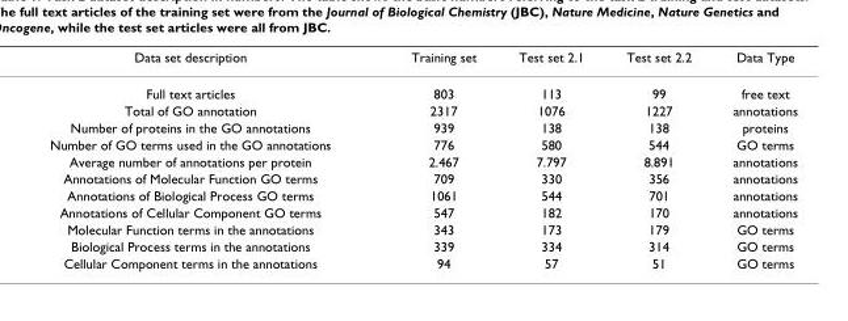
<table><thead><tr><td>Data set description</td><td>Training set</td><td>Test set 2.1</td><td>Test set 2.2</td><td>Data Type</td></tr></thead><tbody><tr><td>Full text articles</td><td>803</td><td>113</td><td>99</td><td>free text</td></tr><tr><td>Total of GO annotation</td><td>2317</td><td>1076</td><td>1227</td><td>annotations</td></tr><tr><td>Number of proteins in the GO annotations</td><td>939</td><td>138</td><td>138</td><td>proteins</td></tr><tr><td>Number of GO terms used in the GO annotations</td><td>776</td><td>580</td><td>544</td><td>GO terms</td></tr><tr><td>Average number of annotations per protein</td><td>2.467</td><td>7.797</td><td>8.891</td><td>annotations</td></tr><tr><td>Annotations of Molecular Function GO terms</td><td>709</td><td>330</td><td>356</td><td>annotations</td></tr><tr><td>Annotations of Biological Process GO terms</td><td>1061</td><td>544</td><td>701</td><td>annotations</td></tr><tr><td>Annotations of Cellular Component GO terms</td><td>547</td><td>182</td><td>170</td><td>annotations</td></tr><tr><td>Molecular Function terms in the annotations</td><td>343</td><td>173</td><td>179</td><td>GO terms</td></tr><tr><td>Biological Process terms in the annotations</td><td>339</td><td>334</td><td>314</td><td>GO terms</td></tr><tr><td>Cellular Component terms in the annotations</td><td>94</td><td>57</td><td>51</td><td>GO terms</td></tr></tbody></table>